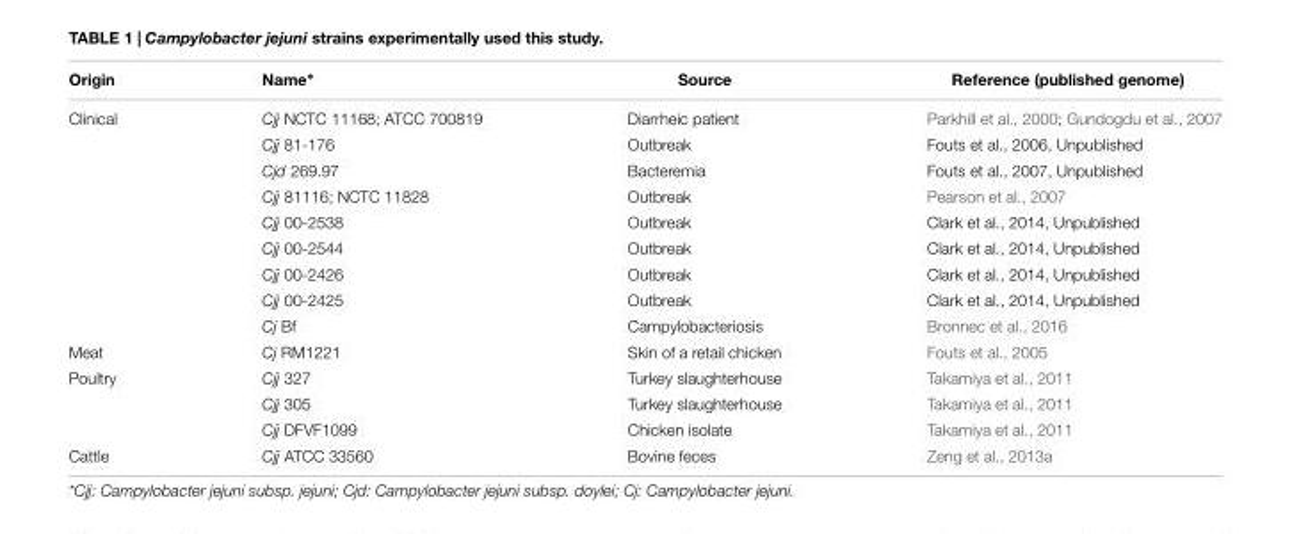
<table><thead><tr><td>Origin</td><td>Name∗</td><td>Source</td><td>Reference (published genome)</td></tr></thead><tbody><tr><td rowspan="9">Clinical</td><td>Cjj NCTC 11168; ATCC 700819</td><td>Diarrheic patient</td><td>Parkhill et al., 2000; Gundogdu et al., 2007</td></tr><tr><td>Cjj 81-176</td><td>Outbreak</td><td>Fouts et al., 2006, Unpublished</td></tr><tr><td>Cjd 269.97</td><td>Bacteremia</td><td>Fouts et al., 2007, Unpublished</td></tr><tr><td>Cjj 81116; NCTC 11828</td><td>Outbreak</td><td>Pearson et al., 2007</td></tr><tr><td>Cjj 00-2538</td><td>Outbreak</td><td>Clark et al., 2014, Unpublished</td></tr><tr><td>Cjj 00-2544</td><td>Outbreak</td><td>Clark et al., 2014, Unpublished</td></tr><tr><td>Cjj 00-2426</td><td>Outbreak</td><td>Clark et al., 2014, Unpublished</td></tr><tr><td>Cjj 00-2425</td><td>Outbreak</td><td>Clark et al., 2014, Unpublished</td></tr><tr><td>Cj Bf</td><td>Campylobacteriosis</td><td>Bronnec et al., 2016</td></tr><tr><td>Meat</td><td>Cj RM1221</td><td>Skin of a retail chicken</td><td>Fouts et al., 2005</td></tr><tr><td rowspan="3">Poultry</td><td>Cjj 327</td><td>Turkey slaughterhouse</td><td>Takamiya et al., 2011</td></tr><tr><td>Cjj 305</td><td>Turkey slaughterhouse</td><td>Takamiya et al., 2011</td></tr><tr><td>Cjj DFVF1099</td><td>Chicken isolate</td><td>Takamiya et al., 2011</td></tr><tr><td>Cattle</td><td>Cjj ATCC 33560</td><td>Bovine feces</td><td>Zeng et al., 2013a</td></tr></tbody></table>